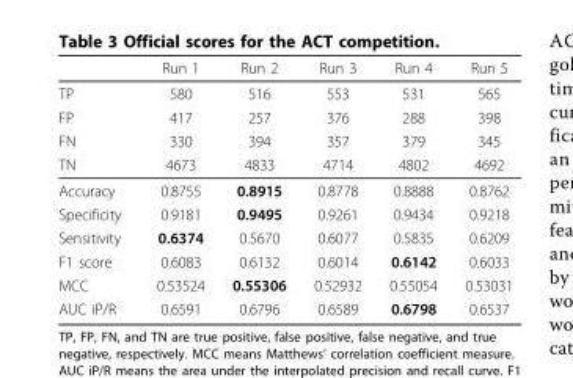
<table><thead><tr><td></td><td>Run 1</td><td>Run 2</td><td>Run 3</td><td>Run 4</td><td>Run 5</td></tr></thead><tbody><tr><td>TP</td><td>580</td><td>516</td><td>553</td><td>531</td><td>565</td></tr><tr><td>FP</td><td>417</td><td>257</td><td>376</td><td>288</td><td>398</td></tr><tr><td>FN</td><td>330</td><td>394</td><td>357</td><td>379</td><td>345</td></tr><tr><td>TN</td><td>4673</td><td>4833</td><td>4714</td><td>4802</td><td>4692</td></tr><tr><td>Accuracy</td><td>0.8755</td><td>0.8915</td><td>0.8778</td><td>0.8888</td><td>0.8762</td></tr><tr><td>Specificity</td><td>0.9181</td><td>0.9495</td><td>0.9261</td><td>0.9434</td><td>0.9218</td></tr><tr><td>Sensitivity</td><td>0.6374</td><td>0.5670</td><td>0.6077</td><td>0.5835</td><td>0.6209</td></tr><tr><td>F1 score</td><td>0.6083</td><td>0.6132</td><td>0.6014</td><td>0.6142</td><td>0.6033</td></tr><tr><td>MCC</td><td>0.53524</td><td>0.55306</td><td>0.52932</td><td>0.55054</td><td>0.53031</td></tr><tr><td>AUC iP/R</td><td>0.6591</td><td>0.6796</td><td>0.6589</td><td>0.6798</td><td>0.6537</td></tr></tbody></table>